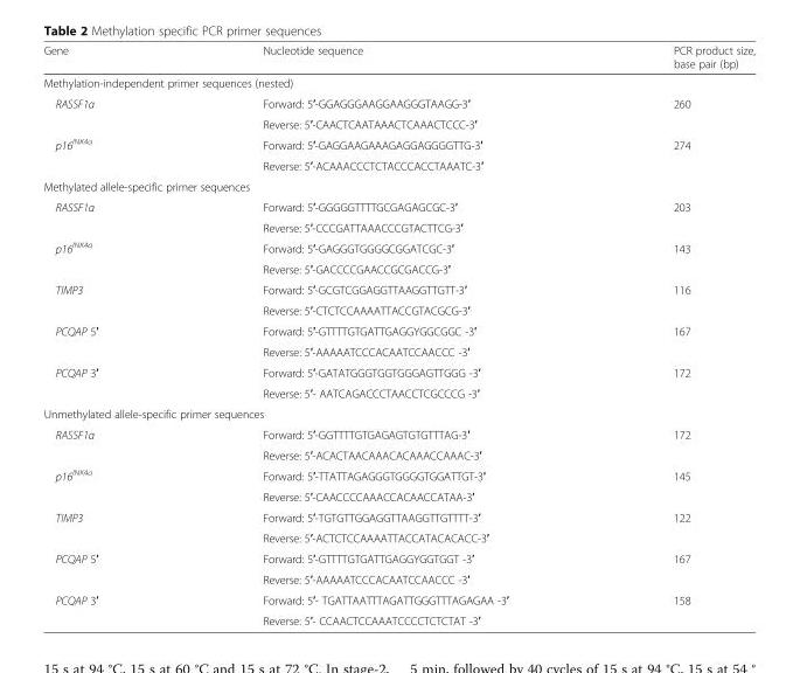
<table><thead><tr><td>Gene</td><td>Nucleotide sequence</td><td>PCR product size, base pair (bp)</td></tr></thead><tbody><tr><td colspan="3">Methylation-independent primer sequences (nested)</td></tr><tr><td rowspan="2">RASSF1α</td><td>Forward: 5′-GGAGGGAAGGAAGGGTAAGG-3′</td><td rowspan="2">260</td></tr><tr><td>Reverse: 5′-CAACTCAATAAACTCAAACTCCC-3′</td></tr><tr><td rowspan="2">p16<sup>INK4a</sup></td><td>Forward: 5′-GAGGAAGAAAGAGGAGGGGTTG-3′</td><td rowspan="2">274</td></tr><tr><td>Reverse: 5′-ACAAACCCTCTACCCACCTAAATC-3′</td></tr><tr><td colspan="3">Methylated allele-specific primer sequences</td></tr><tr><td rowspan="2">RASSF1α</td><td>Forward: 5′-GGGGGTTTTGCGAGAGCGC-3′</td><td rowspan="2">203</td></tr><tr><td>Reverse: 5′-CCCGATTAAACCCGTACTTCG-3′</td></tr><tr><td rowspan="2">p16<sup>INK4a</sup></td><td>Forward: 5′-GAGGGTGGGGCGGATCGC-3′</td><td rowspan="2">143</td></tr><tr><td>Reverse: 5′-GACCCCGAACCGCGACCG-3′</td></tr><tr><td rowspan="2">TIMP3</td><td>Forward: 5′-GCGTCGGAGGTTAAGGTTGTT-3′</td><td rowspan="2">116</td></tr><tr><td>Reverse: 5′-CTCTCCAAAATTACCGTACGCG-3′</td></tr><tr><td rowspan="2">PCQAP 5′</td><td>Forward: 5′-GTTTTGTGATTGAGGYGGCGGC -3′</td><td rowspan="2">167</td></tr><tr><td>Reverse: 5′-AAAAATCCCACAATCCAACCC -3′</td></tr><tr><td rowspan="2">PCQAP 3′</td><td>Forward: 5′-GATATGGGTGGTGGGAGTTGGG -3′</td><td rowspan="2">172</td></tr><tr><td>Reverse: 5′- AATCAGACCCTAACCTCGCCCG -3′</td></tr><tr><td colspan="3">Unmethylated allele-specific primer sequences</td></tr><tr><td rowspan="2">RASSF1α</td><td>Forward: 5′-GGTTTTGTGAGAGTGTGTTTAG-3′</td><td rowspan="2">172</td></tr><tr><td>Reverse: 5′-ACACTAACAAACACAAACCAAAC-3′</td></tr><tr><td rowspan="2">p16<sup>INK4a</sup></td><td>Forward: 5′-TTATTAGAGGGTGGGGTGGATTGT-3′</td><td rowspan="2">145</td></tr><tr><td>Reverse: 5′-CAACCCCAAACCACAACCATAA-3′</td></tr><tr><td rowspan="2">TIMP3</td><td>Forward: 5′-TGTGTTGGAGGTTAAGGTTGTTTT-3′</td><td rowspan="2">122</td></tr><tr><td>Reverse: 5′-ACTCTCCAAAATTACCATACACACC-3′</td></tr><tr><td rowspan="2">PCQAP 5′</td><td>Forward: 5′-GTTTTGTGATTGAGGYGGTGGT -3′</td><td rowspan="2">167</td></tr><tr><td>Reverse: 5′-AAAAATCCCACAATCCAACCC -3′</td></tr><tr><td rowspan="2">PCQAP 3′</td><td>Forward: 5′- TGATTAATTTAGATTGGGTTTAGAGAA -3′</td><td rowspan="2">158</td></tr><tr><td>Reverse: 5′- CCAACTCCAAATCCCCTCTCTAT -3′</td></tr></tbody></table>